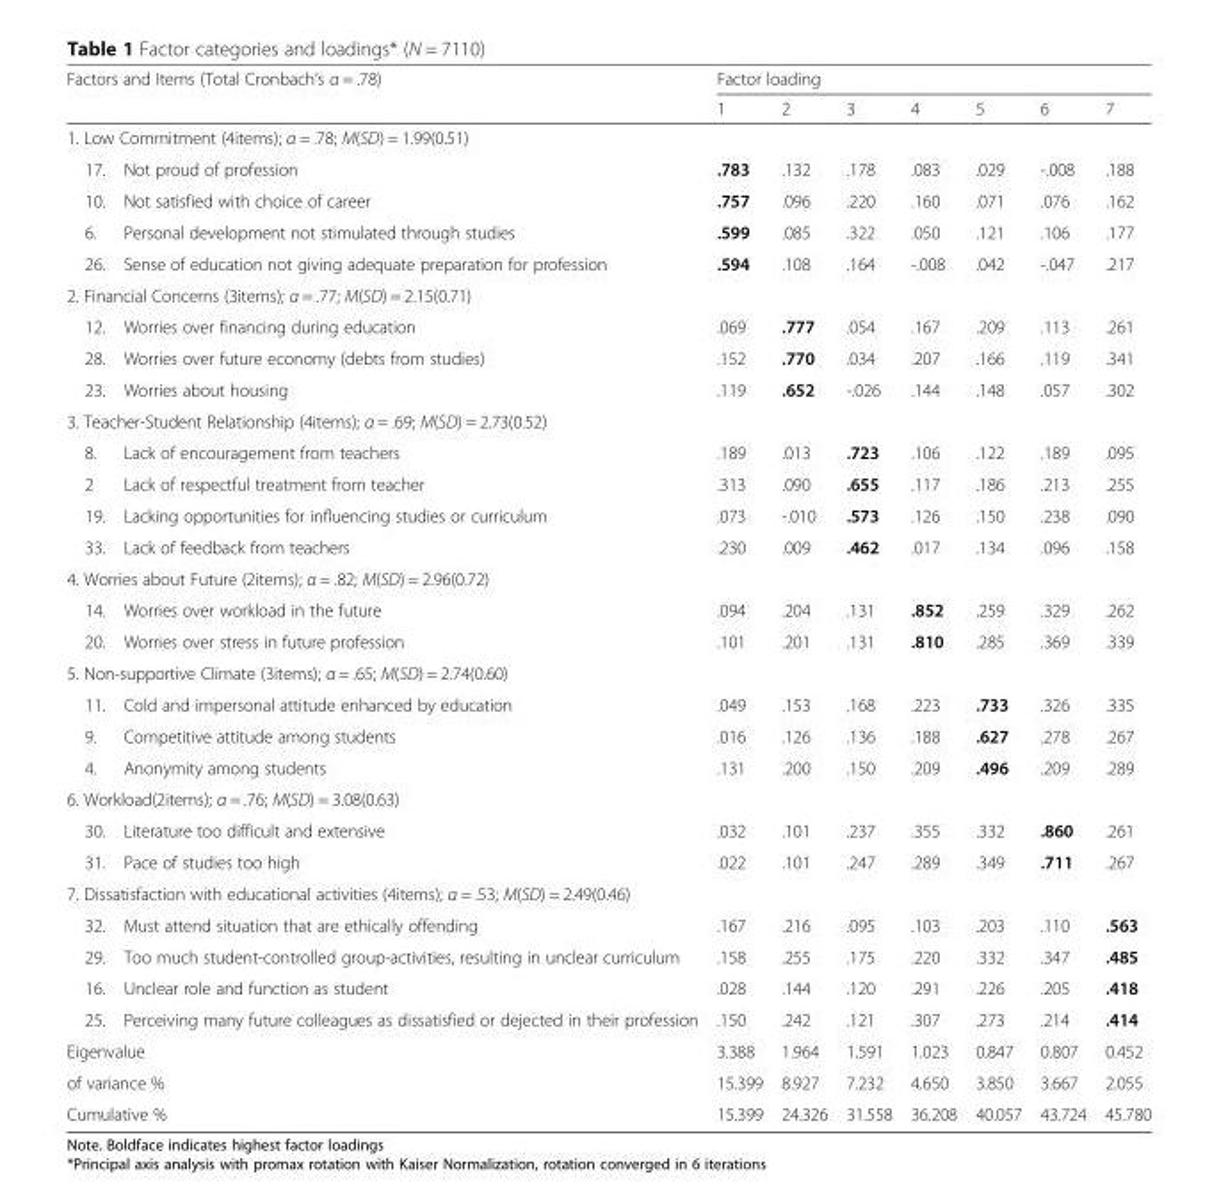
<table><thead><tr><td rowspan="2" colspan="2">Factors and Items (Total Cronbach’s α = .78)</td><td colspan="7">Factor loading</td></tr><tr><td>1</td><td>2</td><td>3</td><td>4</td><td>5</td><td>6</td><td>7</td></tr><tr><td colspan="9">1. Low Commitment (4items); α = .78; M(SD) = 1.99(0.51)</td></tr><tr><td>17.</td><td>Not proud of profession</td><td>.783</td><td>.132</td><td>.178</td><td>.083</td><td>.029</td><td>-.008</td><td>.188</td></tr></thead><tbody><tr><td>10.</td><td>Not satisfied with choice of career</td><td>.757</td><td>.096</td><td>.220</td><td>.160</td><td>.071</td><td>.076</td><td>.162</td></tr><tr><td>6.</td><td>Personal development not stimulated through studies</td><td>.599</td><td>.085</td><td>.322</td><td>.050</td><td>.121</td><td>.106</td><td>.177</td></tr><tr><td>26.</td><td>Sense of education not giving adequate preparation for profession</td><td>.594</td><td>.108</td><td>.164</td><td>-.008</td><td>.042</td><td>-.047</td><td>.217</td></tr><tr><td colspan="9">2. Financial Concerns (3items); α = .77; M(SD) = 2.15(0.71)</td></tr><tr><td>12.</td><td>Worries over financing during education</td><td>.069</td><td>.777</td><td>.054</td><td>.167</td><td>.209</td><td>.113</td><td>.261</td></tr><tr><td>28.</td><td>Worries over future economy (debts from studies)</td><td>.152</td><td>.770</td><td>.034</td><td>.207</td><td>.166</td><td>.119</td><td>.341</td></tr><tr><td>23.</td><td>Worries about housing</td><td>.119</td><td>.652</td><td>-.026</td><td>.144</td><td>.148</td><td>.057</td><td>.302</td></tr><tr><td colspan="9">3. Teacher-Student Relationship (4items); α = .69; M(SD) = 2.73(0.52)</td></tr><tr><td>8.</td><td>Lack of encouragement from teachers</td><td>.189</td><td>.013</td><td>.723</td><td>.106</td><td>.122</td><td>.189</td><td>.095</td></tr><tr><td>2</td><td>Lack of respectful treatment from teacher</td><td>.313</td><td>.090</td><td>.655</td><td>.117</td><td>.186</td><td>.213</td><td>.255</td></tr><tr><td>19.</td><td>Lacking opportunities for influencing studies or curriculum</td><td>.073</td><td>-.010</td><td>.573</td><td>.126</td><td>.150</td><td>.238</td><td>.090</td></tr><tr><td>33.</td><td>Lack of feedback from teachers</td><td>.230</td><td>.009</td><td>.462</td><td>.017</td><td>.134</td><td>.096</td><td>.158</td></tr><tr><td colspan="9">4. Worries about Future (2items); α = .82; M(SD) = 2.96(0.72)</td></tr><tr><td>14.</td><td>Worries over workload in the future</td><td>.094</td><td>.204</td><td>.131</td><td>.852</td><td>.259</td><td>.329</td><td>.262</td></tr><tr><td>20.</td><td>Worries over stress in future profession</td><td>.101</td><td>.201</td><td>.131</td><td>.810</td><td>.285</td><td>.369</td><td>.339</td></tr><tr><td colspan="9">5. Non-supportive Climate (3items); α = .65; M(SD) = 2.74(0.60)</td></tr><tr><td>11.</td><td>Cold and impersonal attitude enhanced by education</td><td>.049</td><td>.153</td><td>.168</td><td>.223</td><td>.733</td><td>.326</td><td>.335</td></tr><tr><td>9.</td><td>Competitive attitude among students</td><td>.016</td><td>.126</td><td>.136</td><td>.188</td><td>.627</td><td>.278</td><td>.267</td></tr><tr><td>4.</td><td>Anonymity among students</td><td>.131</td><td>.200</td><td>.150</td><td>.209</td><td>.496</td><td>.209</td><td>.289</td></tr><tr><td colspan="9">6. Workload(2items); α = .76; M(SD) = 3.08(0.63)</td></tr><tr><td>30.</td><td>Literature too difficult and extensive</td><td>.032</td><td>.101</td><td>.237</td><td>.355</td><td>.332</td><td>.860</td><td>.261</td></tr><tr><td>31.</td><td>Pace of studies too high</td><td>.022</td><td>.101</td><td>.247</td><td>.289</td><td>.349</td><td>.711</td><td>.267</td></tr><tr><td colspan="9">7. Dissatisfaction with educational activities (4items); α = .53; M(SD) = 2.49(0.46)</td></tr><tr><td>32.</td><td>Must attend situation that are ethically offending</td><td>.167</td><td>.216</td><td>.095</td><td>.103</td><td>.203</td><td>.110</td><td>.563</td></tr><tr><td>29.</td><td>Too much student-controlled group-activities, resulting in unclear curriculum</td><td>.158</td><td>.255</td><td>.175</td><td>.220</td><td>.332</td><td>.347</td><td>.485</td></tr><tr><td>16.</td><td>Unclear role and function as student</td><td>.028</td><td>.144</td><td>.120</td><td>.291</td><td>.226</td><td>.205</td><td>.418</td></tr><tr><td>25.</td><td>Perceiving many future colleagues as dissatisfied or dejected in their profession</td><td>.150</td><td>.242</td><td>.121</td><td>.307</td><td>.273</td><td>.214</td><td>.414</td></tr><tr><td colspan="2">Eigenvalue</td><td>3.388</td><td>1.964</td><td>1.591</td><td>1.023</td><td>0.847</td><td>0.807</td><td>0.452</td></tr><tr><td colspan="2">of variance %</td><td>15.399</td><td>8.927</td><td>7.232</td><td>4.650</td><td>3.850</td><td>3.667</td><td>2.055</td></tr><tr><td colspan="2">Cumulative %</td><td>15.399</td><td>24.326</td><td>31.558</td><td>36.208</td><td>40.057</td><td>43.724</td><td>45.780</td></tr></tbody></table>